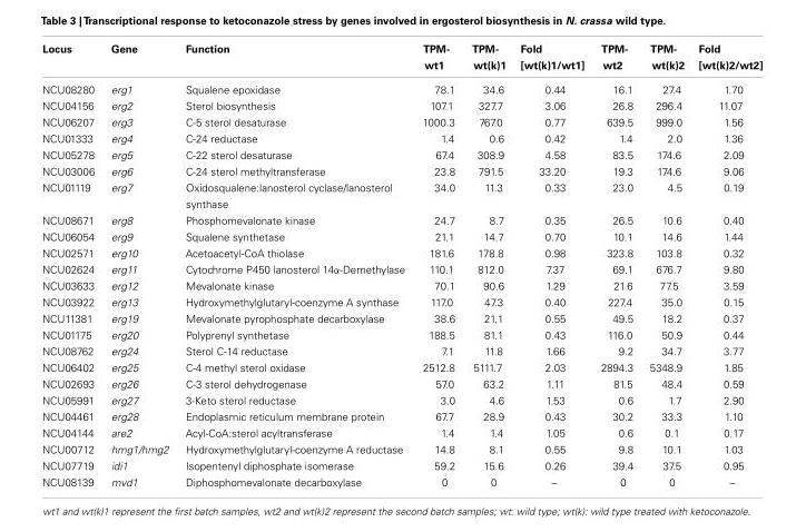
<table><thead><tr><td>Locus</td><td>Gene</td><td>Function</td><td>TPM- wt1</td><td>TPM- wt(k)1</td><td>Fold [wt(k)1/wt1]</td><td>TPM- wt2</td><td>TPM- wt(k)2</td><td>Fold [wt(k)2/wt2]</td></tr></thead><tbody><tr><td>NCU08280</td><td>erg1</td><td>Squalene epoxidase</td><td>78.1</td><td>34.6</td><td>0.44</td><td>16.1</td><td>27.4</td><td>1.70</td></tr><tr><td>NCU04156</td><td>erg2</td><td>Sterol biosynthesis</td><td>107.1</td><td>327.7</td><td>3.06</td><td>26.8</td><td>296.4</td><td>11.07</td></tr><tr><td>NCU06207</td><td>erg3</td><td>C-5 sterol desaturase</td><td>1000.3</td><td>767.0</td><td>0.77</td><td>639.5</td><td>999.0</td><td>1.56</td></tr><tr><td>NCU01333</td><td>erg4</td><td>C-24 reductase</td><td>1.4</td><td>0.6</td><td>0.42</td><td>1.4</td><td>2.0</td><td>1.36</td></tr><tr><td>NCU05278</td><td>erg5</td><td>C-22 sterol desaturase</td><td>67.4</td><td>308.9</td><td>4.58</td><td>83.5</td><td>174.6</td><td>2.09</td></tr><tr><td>NCU03006</td><td>erg6</td><td>C-24 sterol methyltransferase</td><td>23.8</td><td>791.5</td><td>33.20</td><td>19.3</td><td>174.6</td><td>9.06</td></tr><tr><td>NCU01119</td><td>erg7</td><td>Oxidosqualene:lanosterol cyclase/lanosterol synthase</td><td>34.0</td><td>11.3</td><td>0.33</td><td>23.0</td><td>4.5</td><td>0.19</td></tr><tr><td>NCU08671</td><td>erg8</td><td>Phosphomevalonate kinase</td><td>24.7</td><td>8.7</td><td>0.35</td><td>26.5</td><td>10.6</td><td>0.40</td></tr><tr><td>NCU06054</td><td>erg9</td><td>Squalene synthetase</td><td>21.1</td><td>14.7</td><td>0.70</td><td>10.1</td><td>14.6</td><td>1.44</td></tr><tr><td>NCU02571</td><td>erg10</td><td>Acetoacetyl-CoA thiolase</td><td>181.6</td><td>178.8</td><td>0.98</td><td>323.8</td><td>103.8</td><td>0.32</td></tr><tr><td>NCU02624</td><td>erg11</td><td>Cytochrome P450 lanosterol 14α-Demethylase</td><td>110.1</td><td>812.0</td><td>7.37</td><td>69.1</td><td>676.7</td><td>9.80</td></tr><tr><td>NCU03633</td><td>erg12</td><td>Mevalonate kinase</td><td>70.1</td><td>90.6</td><td>1.29</td><td>21.6</td><td>77.5</td><td>3.59</td></tr><tr><td>NCU03922</td><td>erg13</td><td>Hydroxymethylglutaryl-coenzyme A synthase</td><td>117.0</td><td>47.3</td><td>0.40</td><td>227.4</td><td>35.0</td><td>0.15</td></tr><tr><td>NCU11381</td><td>erg19</td><td>Mevalonate pyrophosphate decarboxylase</td><td>38.6</td><td>21.1</td><td>0.55</td><td>49.5</td><td>18.2</td><td>0.37</td></tr><tr><td>NCU01175</td><td>erg20</td><td>Polyprenyl synthetase</td><td>188.5</td><td>81.1</td><td>0.43</td><td>116.0</td><td>50.9</td><td>0.44</td></tr><tr><td>NCU08762</td><td>erg24</td><td>Sterol C-14 reductase</td><td>7.1</td><td>11.8</td><td>1.66</td><td>9.2</td><td>34.7</td><td>3.77</td></tr><tr><td>NCU06402</td><td>erg25</td><td>C-4 methyl sterol oxidase</td><td>2512.8</td><td>5111.7</td><td>2.03</td><td>2894.3</td><td>5348.9</td><td>1.85</td></tr><tr><td>NCU02693</td><td>erg26</td><td>C-3 sterol dehydrogenase</td><td>57.0</td><td>63.2</td><td>1.11</td><td>81.5</td><td>48.4</td><td>0.59</td></tr><tr><td>NCU05991</td><td>erg27</td><td>3-Keto sterol reductase</td><td>3.0</td><td>4.6</td><td>1.53</td><td>0.6</td><td>1.7</td><td>2.90</td></tr><tr><td>NCU04461</td><td>erg28</td><td>Endoplasmic reticulum membrane protein</td><td>67.7</td><td>28.9</td><td>0.43</td><td>30.2</td><td>33.3</td><td>1.10</td></tr><tr><td>NCU04144</td><td>are2</td><td>Acyl-CoA:sterol acyltransferase</td><td>1.4</td><td>1.4</td><td>1.05</td><td>0.6</td><td>0.1</td><td>0.17</td></tr><tr><td>NCU00712</td><td>hmg1/hmg2</td><td>Hydroxymethylglutaryl-coenzyme A reductase</td><td>14.8</td><td>8.1</td><td>0.55</td><td>9.8</td><td>10.1</td><td>1.03</td></tr><tr><td>NCU07719</td><td>idi1</td><td>Isopentenyl diphosphate isomerase</td><td>59.2</td><td>15.6</td><td>0.26</td><td>39.4</td><td>37.5</td><td>0.95</td></tr><tr><td>NCU08139</td><td>mvd1</td><td>Diphosphomevalonate decarboxylase</td><td>0</td><td>0</td><td>–</td><td>0</td><td>0</td><td>–</td></tr></tbody></table>